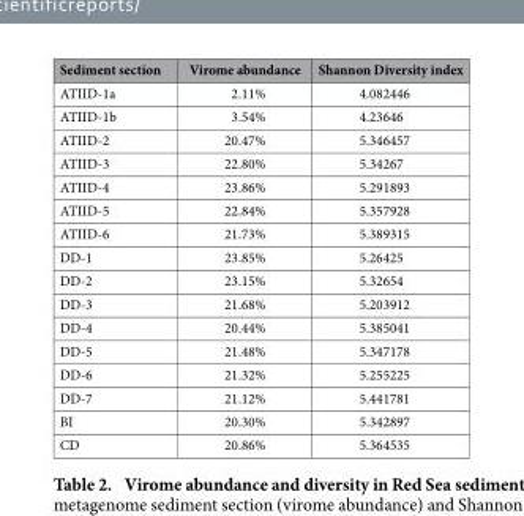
<table><thead><tr><td>Sediment section</td><td>Virome abundance</td><td>Shannon Diversity index</td></tr></thead><tbody><tr><td>ATIID-1a</td><td>2.11%</td><td>4.082446</td></tr><tr><td>ATIID-1b</td><td>3.54%</td><td>4.23646</td></tr><tr><td>ATIID-2</td><td>20.47%</td><td>5.346457</td></tr><tr><td>ATIID-3</td><td>22.80%</td><td>5.34267</td></tr><tr><td>ATIID-4</td><td>23.86%</td><td>5.291893</td></tr><tr><td>ATIID-5</td><td>22.84%</td><td>5.357928</td></tr><tr><td>ATIID-6</td><td>21.73%</td><td>5.389315</td></tr><tr><td>DD-1</td><td>23.85%</td><td>5.26425</td></tr><tr><td>DD-2</td><td>23.15%</td><td>5.32654</td></tr><tr><td>DD-3</td><td>21.68%</td><td>5.203912</td></tr><tr><td>DD-4</td><td>20.44%</td><td>5.385041</td></tr><tr><td>DD-5</td><td>21.48%</td><td>5.347178</td></tr><tr><td>DD-6</td><td>21.32%</td><td>5.255225</td></tr><tr><td>DD-7</td><td>21.12%</td><td>5.441781</td></tr><tr><td>BI</td><td>20.30%</td><td>5.342897</td></tr><tr><td>CD</td><td>20.86%</td><td>5.364535</td></tr></tbody></table>